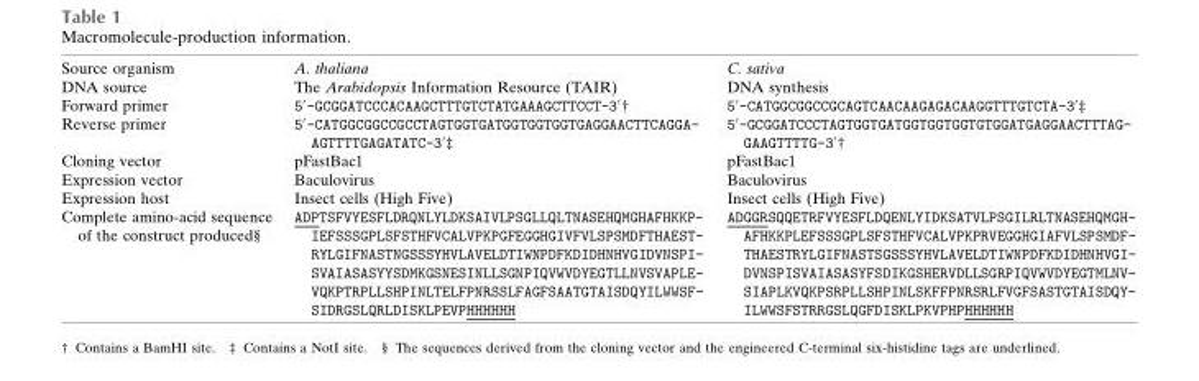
<table><tbody><tr><td>Source organism</td><td>A. thaliana</td><td>C. sativa</td></tr><tr><td>DNA source</td><td>The Arabidopsis Information Resource (TAIR)</td><td>DNA synthesis</td></tr><tr><td>Forward primer</td><td>5′-GCGGATCCCACAAGCTTTGTCTATGAAAGCTTCCT-3′†</td><td>5′-CATGGCGGCCGCAGTCAACAAGAGACAAGGTTTGTCTA-3′‡</td></tr><tr><td>Reverse primer</td><td>50-CATGGCGGCCGCCTAGTGGTGATGGTGGTGGTGAGGAACTTCAGGA- AGTTTTGAGATATC-30‡</td><td>50-GCGGATCCCTAGTGGTGATGGTGGTGGTGTGGATGAGGAACTTTAG- GAAGTTTTG-30†</td></tr><tr><td>Cloning vector</td><td>pFastBac1</td><td>pFastBac1</td></tr><tr><td>Expression vector</td><td>Baculovirus</td><td>Baculovirus</td></tr><tr><td>Expression host</td><td>Insect cells (High Five)</td><td>Insect cells (High Five)</td></tr><tr><td>Complete amino-acid sequence of the construct produced§</td><td>ADPTSFVYESFLDRQNLYLDKSAIVLPSGLLQLTNASEHQMGHAFHKKP- IEFSSSGPLSFSTHFVCALVPKPGFEGGHGIVFVLSPSMDFTHAEST- RYLGIFNASTNGSSSYHVLAVELDTIWNPDFKDIDHNHVGIDVNSPI- SVAIASASYYSDMKGSNESINLLSGNPIQVWVDYEGTLLNVSVAPLE- VQKPTRPLLSHPINLTELFPNRSSLFAGFSAATGTAISDQYILWWSF- SIDRGSLQRLDISKLPEVPHHHHHH</td><td>ADGGRSQQETRFVYESFLDQENLYIDKSATVLPSGILRLTNASEHQMGH- AFHKKPLEFSSSGPLSFSTHFVCALVPKPRVEGGHGIAFVLSPSMDF- THAESTRYLGIFNASTSGSSSYHVLAVELDTIWNPDFKDIDHNHVGI- DVNSPISVAIASASYFSDIKGSHERVDLLSGRPIQVWVDYEGTMLNV- SIAPLKVQKPSRPLLSHPINLSKFFPNRSRLFVGFSASTGTAISDQY- ILWWSFSTRRGSLQGFDISKLPKVPHPHHHHHH</td></tr></tbody></table>